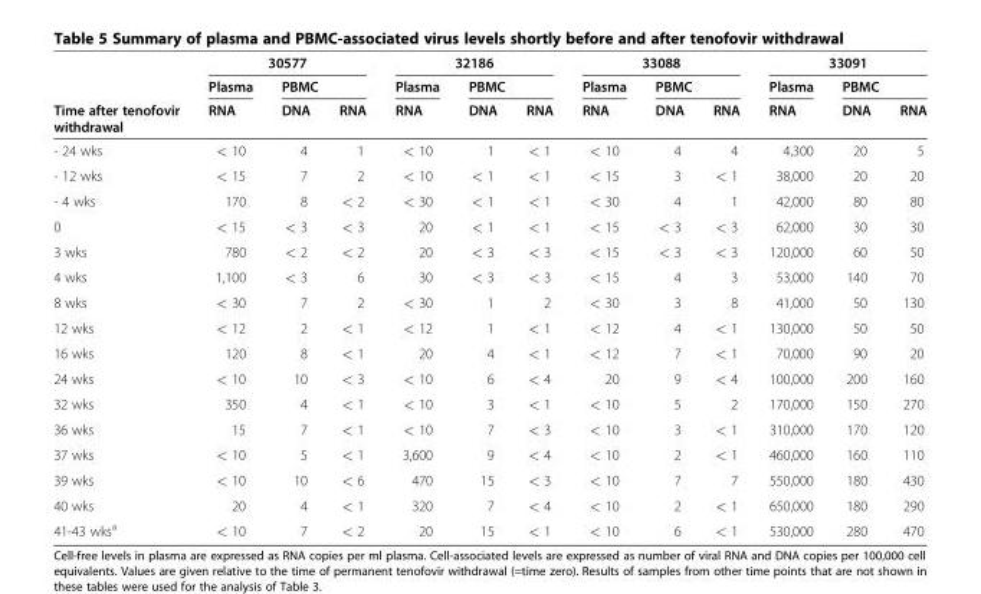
<table><thead><tr><td rowspan="3">Time after tenofovir withdrawal</td><td colspan="3">30577</td><td colspan="3">32186</td><td colspan="3">33088</td><td colspan="3">33091</td></tr><tr><td rowspan="2">Plasma RNA</td><td colspan="2">PBMC</td><td rowspan="2">Plasma RNA</td><td colspan="2">PBMC</td><td rowspan="2">Plasma RNA</td><td colspan="2">PBMC</td><td rowspan="2">Plasma RNA</td><td colspan="2">PBMC</td></tr><tr><td>DNA</td><td>RNA</td><td>DNA</td><td>RNA</td><td>DNA</td><td>RNA</td><td>DNA</td><td>RNA</td></tr></thead><tbody><tr><td>- 24 wks</td><td>&lt; 10</td><td>4</td><td>1</td><td>&lt; 10</td><td>1</td><td>&lt; 1</td><td>&lt; 10</td><td>4</td><td>4</td><td>4,300</td><td>20</td><td>5</td></tr><tr><td>- 12 wks</td><td>&lt; 15</td><td>7</td><td>2</td><td>&lt; 10</td><td>&lt; 1</td><td>&lt; 1</td><td>&lt; 15</td><td>3</td><td>&lt; 1</td><td>38,000</td><td>20</td><td>20</td></tr><tr><td>- 4 wks</td><td>170</td><td>8</td><td>&lt; 2</td><td>&lt; 30</td><td>&lt; 1</td><td>&lt; 1</td><td>&lt; 30</td><td>4</td><td>1</td><td>42,000</td><td>80</td><td>80</td></tr><tr><td>0</td><td>&lt; 15</td><td>&lt; 3</td><td>&lt; 3</td><td>20</td><td>&lt; 1</td><td>&lt; 1</td><td>&lt; 15</td><td>&lt; 3</td><td>&lt; 3</td><td>62,000</td><td>30</td><td>30</td></tr><tr><td>3 wks</td><td>780</td><td>&lt; 2</td><td>&lt; 2</td><td>20</td><td>&lt; 3</td><td>&lt; 3</td><td>&lt; 15</td><td>&lt; 3</td><td>&lt; 3</td><td>120,000</td><td>60</td><td>50</td></tr><tr><td>4 wks</td><td>1,100</td><td>&lt; 3</td><td>6</td><td>30</td><td>&lt; 3</td><td>&lt; 3</td><td>&lt; 15</td><td>4</td><td>3</td><td>53,000</td><td>140</td><td>70</td></tr><tr><td>8 wks</td><td>&lt; 30</td><td>7</td><td>2</td><td>&lt; 30</td><td>1</td><td>2</td><td>&lt; 30</td><td>3</td><td>8</td><td>41,000</td><td>50</td><td>130</td></tr><tr><td>12 wks</td><td>&lt; 12</td><td>2</td><td>&lt; 1</td><td>&lt; 12</td><td>1</td><td>&lt; 1</td><td>&lt; 12</td><td>4</td><td>&lt; 1</td><td>130,000</td><td>50</td><td>50</td></tr><tr><td>16 wks</td><td>120</td><td>8</td><td>&lt; 1</td><td>20</td><td>4</td><td>&lt; 1</td><td>&lt; 12</td><td>7</td><td>&lt; 1</td><td>70,000</td><td>90</td><td>20</td></tr><tr><td>24 wks</td><td>&lt; 10</td><td>10</td><td>&lt; 3</td><td>&lt; 10</td><td>6</td><td>&lt; 4</td><td>20</td><td>9</td><td>&lt; 4</td><td>100,000</td><td>200</td><td>160</td></tr><tr><td>32 wks</td><td>350</td><td>4</td><td>&lt; 1</td><td>&lt; 10</td><td>3</td><td>&lt; 1</td><td>&lt; 10</td><td>5</td><td>2</td><td>170,000</td><td>150</td><td>270</td></tr><tr><td>36 wks</td><td>15</td><td>7</td><td>&lt; 1</td><td>&lt; 10</td><td>7</td><td>&lt; 3</td><td>&lt; 10</td><td>3</td><td>&lt; 1</td><td>310,000</td><td>170</td><td>120</td></tr><tr><td>37 wks</td><td>&lt; 10</td><td>5</td><td>&lt; 1</td><td>3,600</td><td>9</td><td>&lt; 4</td><td>&lt; 10</td><td>2</td><td>&lt; 1</td><td>460,000</td><td>160</td><td>110</td></tr><tr><td>39 wks</td><td>&lt; 10</td><td>10</td><td>&lt; 6</td><td>470</td><td>15</td><td>&lt; 3</td><td>&lt; 10</td><td>7</td><td>7</td><td>550,000</td><td>180</td><td>430</td></tr><tr><td>40 wks</td><td>20</td><td>4</td><td>&lt; 1</td><td>320</td><td>7</td><td>&lt; 4</td><td>&lt; 10</td><td>2</td><td>&lt; 1</td><td>650,000</td><td>180</td><td>290</td></tr><tr><td>41-43 wks<sup>a</sup></td><td>&lt; 10</td><td>7</td><td>&lt; 2</td><td>20</td><td>15</td><td>&lt; 1</td><td>&lt; 10</td><td>6</td><td>&lt; 1</td><td>530,000</td><td>280</td><td>470</td></tr></tbody></table>